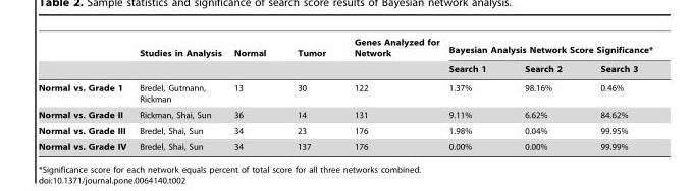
<table><thead><tr><td rowspan="2"></td><td rowspan="2">Studies in Analysis</td><td rowspan="2">Normal</td><td rowspan="2">Tumor</td><td rowspan="2">Genes Analyzed for Network</td><td colspan="3">Bayesian Analysis Network Score Significance*</td></tr><tr><td>Search 1</td><td>Search 2</td><td>Search 3</td></tr></thead><tbody><tr><td>Normal vs. Grade 1</td><td>Bredel, Gutmann, Rickman</td><td>13</td><td>30</td><td>122</td><td>1.37%</td><td>98.16%</td><td>0.46%</td></tr><tr><td>Normal vs. Grade II</td><td>Rickman, Shai, Sun</td><td>36</td><td>14</td><td>131</td><td>9.11%</td><td>6.62%</td><td>84.62%</td></tr><tr><td>Normal vs. Grade III</td><td>Bredel, Shai, Sun</td><td>34</td><td>23</td><td>176</td><td>1.98%</td><td>0.04%</td><td>99.95%</td></tr><tr><td>Normal vs. Grade IV</td><td>Bredel, Shai, Sun</td><td>34</td><td>137</td><td>176</td><td>0.00%</td><td>0.00%</td><td>99.99%</td></tr></tbody></table>